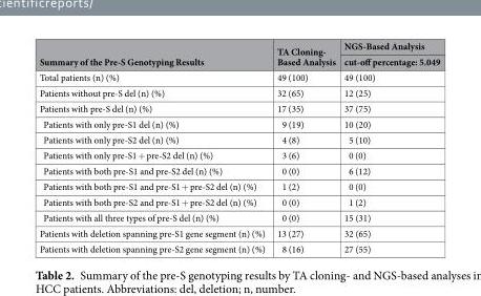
<table><thead><tr><td rowspan="2">Summary of the Pre-S Genotyping Results</td><td rowspan="2">TA Cloning- Based Analysis</td><td rowspan="2">NGS-Based Analysis cut-off percentage: 5.049</td></tr><tr></tr></thead><tbody><tr><td>Total patients (n) (%)</td><td>49 (100)</td><td>49 (100)</td></tr><tr><td>Patients without pre-S del (n) (%)</td><td>32 (65)</td><td>12 (25)</td></tr><tr><td>Patients with pre-S del (n) (%)</td><td>17 (35)</td><td>37 (75)</td></tr><tr><td>Patients with only pre-S1 del (n) (%)</td><td>9 (19)</td><td>10 (20)</td></tr><tr><td>Patients with only pre-S2 del (n) (%)</td><td>4 (8)</td><td>5 (10)</td></tr><tr><td>Patients with only pre-S1 + pre-S2 del (n) (%)</td><td>3 (6)</td><td>0 (0)</td></tr><tr><td>Patients with both pre-S1 and pre-S2 del (n) (%)</td><td>0 (0)</td><td>6 (12)</td></tr><tr><td>Patients with both pre-S1 and pre-S1 + pre-S2 del (n) (%)</td><td>1 (2)</td><td>0 (0)</td></tr><tr><td>Patients with both pre-S2 and pre-S1 + pre-S2 del (n) (%)</td><td>0 (0)</td><td>1 (2)</td></tr><tr><td>Patients with all three types of pre-S del (n) (%)</td><td>0 (0)</td><td>15 (31)</td></tr><tr><td>Patients with deletion spanning pre-S1 gene segment (n) (%)</td><td>13 (27)</td><td>32 (65)</td></tr><tr><td>Patients with deletion spanning pre-S2 gene segment (n) (%)</td><td>8 (16)</td><td>27 (55)</td></tr></tbody></table>